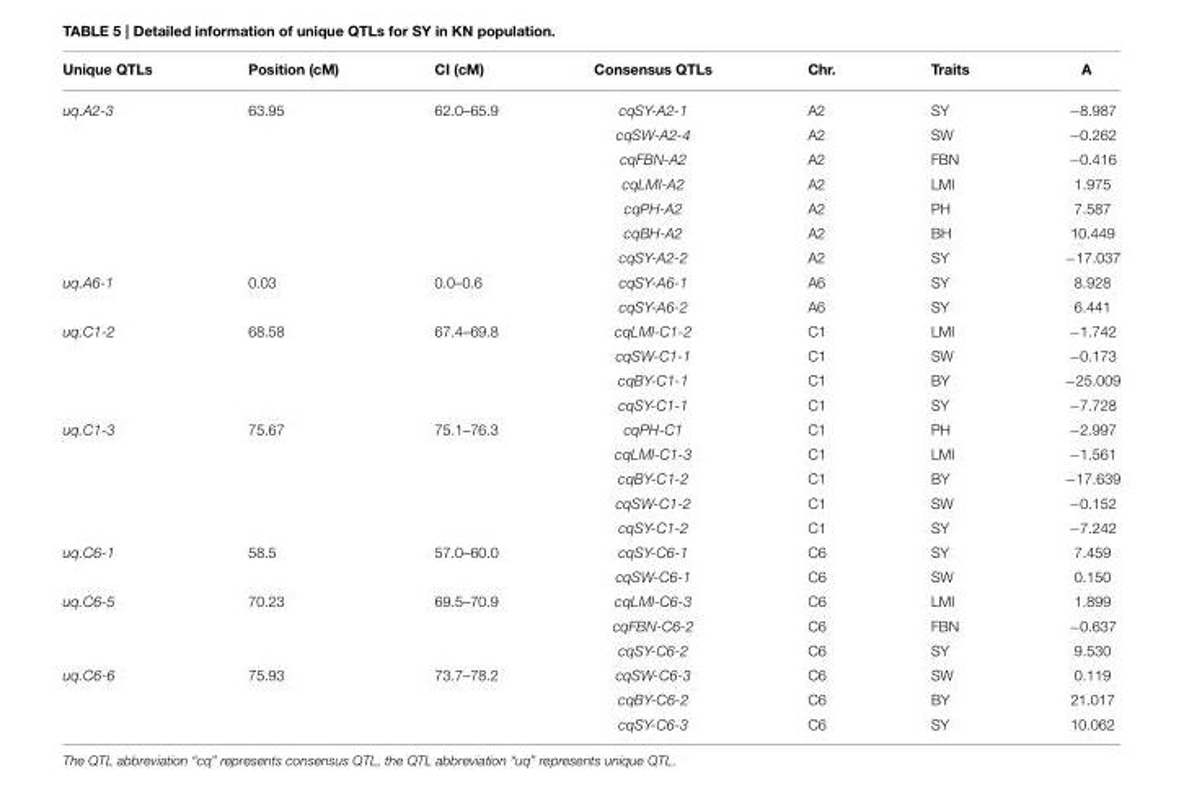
<table><thead><tr><td>Unique QTLs</td><td>Position (cM)</td><td>CI (cM)</td><td>Consensus QTLs</td><td>Chr.</td><td>Traits</td><td>A</td></tr></thead><tbody><tr><td rowspan="7">uq.A2-3</td><td>63.95</td><td>62.0–65.9</td><td>cqSY-A2-1</td><td>A2</td><td>SY</td><td>−8.987</td></tr><tr><td></td><td></td><td>cqSW-A2-4</td><td>A2</td><td>SW</td><td>−0.262</td></tr><tr><td></td><td></td><td>cqFBN-A2</td><td>A2</td><td>FBN</td><td>−0.416</td></tr><tr><td></td><td></td><td>cqLMI-A2</td><td>A2</td><td>LMI</td><td>1.975</td></tr><tr><td></td><td></td><td>cqPH-A2</td><td>A2</td><td>PH</td><td>7.587</td></tr><tr><td></td><td></td><td>cqBH-A2</td><td>A2</td><td>BH</td><td>10.449</td></tr><tr><td></td><td></td><td>cqSY-A2-2</td><td>A2</td><td>SY</td><td>−17.037</td></tr><tr><td rowspan="2">uq.A6-1</td><td>0.03</td><td>0.0–0.6</td><td>cqSY-A6-1</td><td>A6</td><td>SY</td><td>8.928</td></tr><tr><td></td><td></td><td>cqSY-A6-2</td><td>A6</td><td>SY</td><td>6.441</td></tr><tr><td rowspan="4">uq.C1-2</td><td>68.58</td><td>67.4–69.8</td><td>cqLMI-C1-2</td><td>C1</td><td>LMI</td><td>−1.742</td></tr><tr><td></td><td></td><td>cqSW-C1-1</td><td>C1</td><td>SW</td><td>−0.173</td></tr><tr><td></td><td></td><td>cqBY-C1-1</td><td>C1</td><td>BY</td><td>−25.009</td></tr><tr><td></td><td></td><td>cqSY-C1-1</td><td>C1</td><td>SY</td><td>−7.728</td></tr><tr><td rowspan="5">uq.C1-3</td><td>75.67</td><td>75.1–76.3</td><td>cqPH-C1</td><td>C1</td><td>PH</td><td>−2.997</td></tr><tr><td></td><td></td><td>cqLMI-C1-3</td><td>C1</td><td>LMI</td><td>−1.561</td></tr><tr><td></td><td></td><td>cqBY-C1-2</td><td>C1</td><td>BY</td><td>−17.639</td></tr><tr><td></td><td></td><td>cqSW-C1-2</td><td>C1</td><td>SW</td><td>−0.152</td></tr><tr><td></td><td></td><td>cqSY-C1-2</td><td>C1</td><td>SY</td><td>−7.242</td></tr><tr><td rowspan="2">uq.C6-1</td><td>58.5</td><td>57.0–60.0</td><td>cqSY-C6-1</td><td>C6</td><td>SY</td><td>7.459</td></tr><tr><td></td><td></td><td>cqSW-C6-1</td><td>C6</td><td>SW</td><td>0.150</td></tr><tr><td rowspan="3">uq.C6-5</td><td>70.23</td><td>69.5–70.9</td><td>cqLMI-C6-3</td><td>C6</td><td>LMI</td><td>1.899</td></tr><tr><td></td><td></td><td>cqFBN-C6-2</td><td>C6</td><td>FBN</td><td>−0.637</td></tr><tr><td></td><td></td><td>cqSY-C6-2</td><td>C6</td><td>SY</td><td>9.530</td></tr><tr><td rowspan="3">uq.C6-6</td><td>75.93</td><td>73.7–78.2</td><td>cqSW-C6-3</td><td>C6</td><td>SW</td><td>0.119</td></tr><tr><td></td><td></td><td>cqBY-C6-2</td><td>C6</td><td>BY</td><td>21.017</td></tr><tr><td></td><td></td><td>cqSY-C6-3</td><td>C6</td><td>SY</td><td>10.062</td></tr></tbody></table>